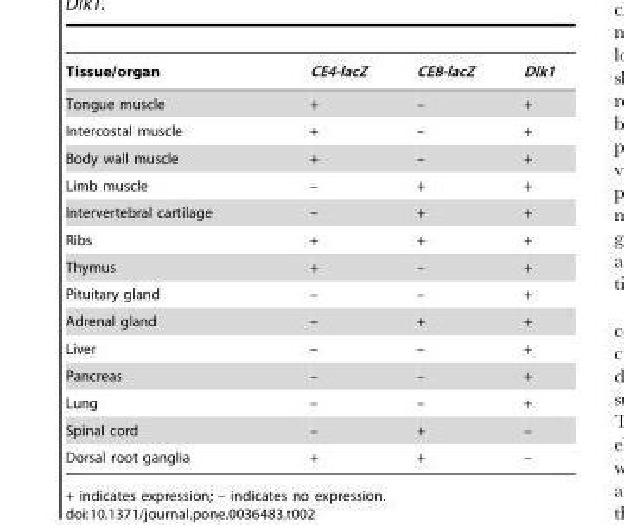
<table><thead><tr><td>Tissue/organ</td><td>CE4-lacZ</td><td>CE8-lacZ</td><td>Dlk1</td></tr></thead><tbody><tr><td>Tongue muscle</td><td>+</td><td>–</td><td>+</td></tr><tr><td>Intercostal muscle</td><td>+</td><td>–</td><td>+</td></tr><tr><td>Body wall muscle</td><td>+</td><td>–</td><td>+</td></tr><tr><td>Limb muscle</td><td>–</td><td>+</td><td>+</td></tr><tr><td>Intervertebral cartilage</td><td>–</td><td>+</td><td>+</td></tr><tr><td>Ribs</td><td>+</td><td>+</td><td>+</td></tr><tr><td>Thymus</td><td>+</td><td>–</td><td>+</td></tr><tr><td>Pituitary gland</td><td>–</td><td>–</td><td>+</td></tr><tr><td>Adrenal gland</td><td>–</td><td>+</td><td>+</td></tr><tr><td>Liver</td><td>–</td><td>–</td><td>+</td></tr><tr><td>Pancreas</td><td>–</td><td>–</td><td>+</td></tr><tr><td>Lung</td><td>–</td><td>–</td><td>+</td></tr><tr><td>Spinal cord</td><td>–</td><td>+</td><td>–</td></tr><tr><td>Dorsal root ganglia</td><td>+</td><td>+</td><td>–</td></tr></tbody></table>